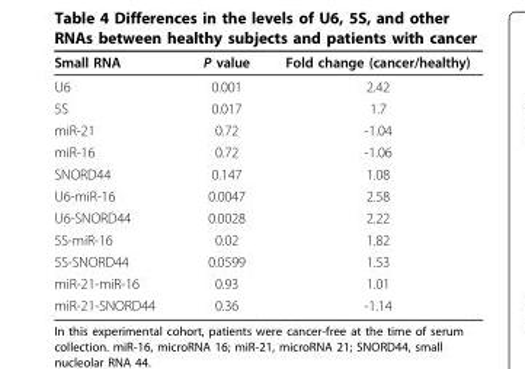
<table><thead><tr><td>Small RNA</td><td>P value</td><td>Fold change (cancer/healthy)</td></tr></thead><tbody><tr><td>U6</td><td>0.001</td><td>2.42</td></tr><tr><td>5S</td><td>0.017</td><td>1.7</td></tr><tr><td>miR-21</td><td>0.72</td><td>-1.04</td></tr><tr><td>miR-16</td><td>0.72</td><td>-1.06</td></tr><tr><td>SNORD44</td><td>0.147</td><td>1.08</td></tr><tr><td>U6-miR-16</td><td>0.0047</td><td>2.58</td></tr><tr><td>U6-SNORD44</td><td>0.0028</td><td>2.22</td></tr><tr><td>5S-miR-16</td><td>0.02</td><td>1.82</td></tr><tr><td>5S-SNORD44</td><td>0.0599</td><td>1.53</td></tr><tr><td>miR-21-miR-16</td><td>0.93</td><td>1.01</td></tr><tr><td>miR-21-SNORD44</td><td>0.36</td><td>-1.14</td></tr></tbody></table>